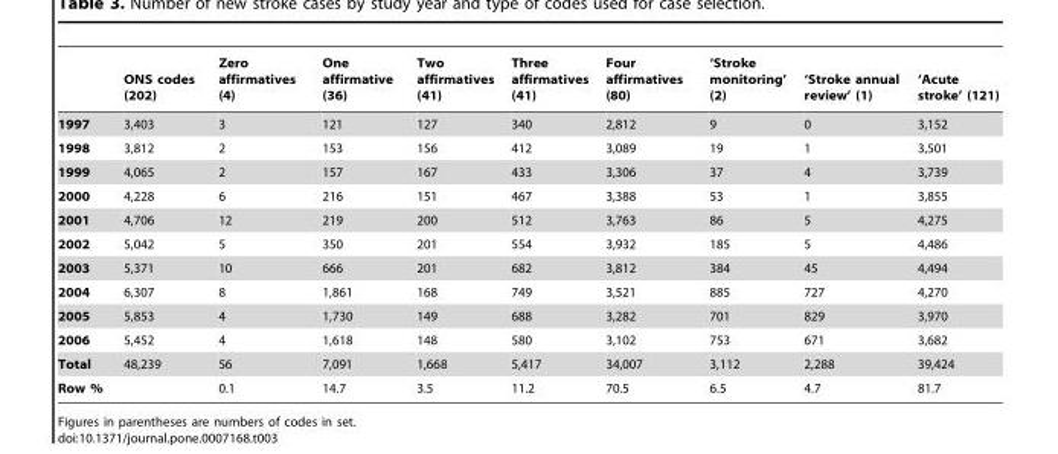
<table><thead><tr><td></td><td>ONS codes (202)</td><td>Zero affirmatives (4)</td><td>One affirmative (36)</td><td>Two affirmatives (41)</td><td>Three affirmatives (41)</td><td>Four affirmatives (80)</td><td>‘Stroke monitoring’ (2)</td><td>‘Stroke annual review’ (1)</td><td>‘Acute stroke’ (121)</td></tr></thead><tbody><tr><td>1997</td><td>3,403</td><td>3</td><td>121</td><td>127</td><td>340</td><td>2,812</td><td>9</td><td>0</td><td>3,152</td></tr><tr><td>1998</td><td>3,812</td><td>2</td><td>153</td><td>156</td><td>412</td><td>3,089</td><td>19</td><td>1</td><td>3,501</td></tr><tr><td>1999</td><td>4,065</td><td>2</td><td>157</td><td>167</td><td>433</td><td>3,306</td><td>37</td><td>4</td><td>3,739</td></tr><tr><td>2000</td><td>4,228</td><td>6</td><td>216</td><td>151</td><td>467</td><td>3,388</td><td>53</td><td>1</td><td>3,855</td></tr><tr><td>2001</td><td>4,706</td><td>12</td><td>219</td><td>200</td><td>512</td><td>3,763</td><td>86</td><td>5</td><td>4,275</td></tr><tr><td>2002</td><td>5,042</td><td>5</td><td>350</td><td>201</td><td>554</td><td>3,932</td><td>185</td><td>5</td><td>4,486</td></tr><tr><td>2003</td><td>5,371</td><td>10</td><td>666</td><td>201</td><td>682</td><td>3,812</td><td>384</td><td>45</td><td>4,494</td></tr><tr><td>2004</td><td>6,307</td><td>8</td><td>1,861</td><td>168</td><td>749</td><td>3,521</td><td>885</td><td>727</td><td>4,270</td></tr><tr><td>2005</td><td>5,853</td><td>4</td><td>1,730</td><td>149</td><td>688</td><td>3,282</td><td>701</td><td>829</td><td>3,970</td></tr><tr><td>2006</td><td>5,452</td><td>4</td><td>1,618</td><td>148</td><td>580</td><td>3,102</td><td>753</td><td>671</td><td>3,682</td></tr><tr><td>Total</td><td>48,239</td><td>56</td><td>7,091</td><td>1,668</td><td>5,417</td><td>34,007</td><td>3,112</td><td>2,288</td><td>39,424</td></tr><tr><td>Row %</td><td></td><td>0.1</td><td>14.7</td><td>3.5</td><td>11.2</td><td>70.5</td><td>6.5</td><td>4.7</td><td>81.7</td></tr></tbody></table>